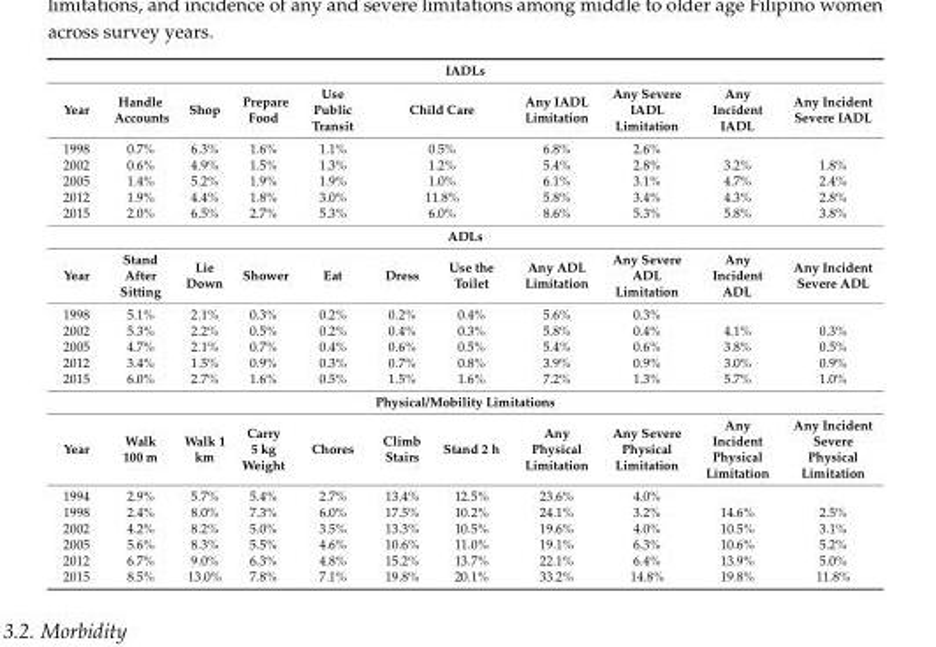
<table><tbody><tr><td colspan="11">IADLs</td></tr><tr><td>Year</td><td>Handle Accounts</td><td>Shop</td><td>Prepare Food</td><td>Use Public Transit</td><td colspan="2">Child Care</td><td>Any IADL Limitation</td><td>Any Severe IADL Limitation</td><td>Any Incident IADL</td><td>Any Incident Severe IADL</td></tr><tr><td>1998</td><td>0.7%</td><td>6.3%</td><td>1.6%</td><td>1.1%</td><td colspan="2">0.5%</td><td>6.8%</td><td>2.6%</td><td></td><td></td></tr><tr><td>2002</td><td>0.6%</td><td>4.9%</td><td>1.5%</td><td>1.3%</td><td colspan="2">1.2%</td><td>5.4%</td><td>2.8%</td><td>3.2%</td><td>1.8%</td></tr><tr><td>2005</td><td>1.4%</td><td>5.2%</td><td>1.9%</td><td>1.9%</td><td colspan="2">1.0%</td><td>6.1%</td><td>3.1%</td><td>4.7%</td><td>2.4%</td></tr><tr><td>2012</td><td>1.9%</td><td>4.4%</td><td>1.8%</td><td>3.0%</td><td colspan="2">11.8%</td><td>5.8%</td><td>3.4%</td><td>4.3%</td><td>2.8%</td></tr><tr><td>2015</td><td>2.0%</td><td>6.5%</td><td>2.7%</td><td>5.3%</td><td colspan="2">6.0%</td><td>8.6%</td><td>5.3%</td><td>5.8%</td><td>3.8%</td></tr><tr><td colspan="11">ADLs</td></tr><tr><td>Year</td><td>Stand After Sitting</td><td>Lie Down</td><td>Shower</td><td>Eat</td><td>Dress</td><td>Use the Toilet</td><td>Any ADL Limitation</td><td>Any Severe ADL Limitation</td><td>Any Incident ADL</td><td>Any Incident Severe ADL</td></tr><tr><td>1998</td><td>5.1%</td><td>2.1%</td><td>0.3%</td><td>0.2%</td><td>0.2%</td><td>0.4%</td><td>5.6%</td><td>0.3%</td><td></td><td></td></tr><tr><td>2002</td><td>5.3%</td><td>2.2%</td><td>0.5%</td><td>0.2%</td><td>0.4%</td><td>0.3%</td><td>5.8%</td><td>0.4%</td><td>4.1%</td><td>0.3%</td></tr><tr><td>2005</td><td>4.7%</td><td>2.1%</td><td>0.7%</td><td>0.4%</td><td>0.6%</td><td>0.5%</td><td>5.4%</td><td>0.6%</td><td>3.8%</td><td>0.5%</td></tr><tr><td>2012</td><td>3.4%</td><td>1.5%</td><td>0.9%</td><td>0.3%</td><td>0.7%</td><td>0.8%</td><td>3.9%</td><td>0.9%</td><td>3.0%</td><td>0.9%</td></tr><tr><td>2015</td><td>6.0%</td><td>2.7%</td><td>1.6%</td><td>0.5%</td><td>1.5%</td><td>1.6%</td><td>7.2%</td><td>1.3%</td><td>5.7%</td><td>1.0%</td></tr><tr><td colspan="11">Physical/Mobility Limitations</td></tr><tr><td>Year</td><td>Walk 100 m</td><td>Walk 1 km</td><td>Carry 5 kg Weight</td><td>Chores</td><td>Climb Stairs</td><td>Stand 2 h</td><td>Any Physical Limitation</td><td>Any Severe Physical Limitation</td><td>Any Incident Physical Limitation</td><td>Any Incident Severe Physical Limitation</td></tr><tr><td>1994</td><td>2.9%</td><td>5.7%</td><td>5.4%</td><td>2.7%</td><td>13.4%</td><td>12.5%</td><td>23.6%</td><td>4.0%</td><td></td><td></td></tr><tr><td>1998</td><td>2.4%</td><td>8.0%</td><td>7.3%</td><td>6.0%</td><td>17.5%</td><td>10.2%</td><td>24.1%</td><td>3.2%</td><td>14.6%</td><td>2.5%</td></tr><tr><td>2002</td><td>4.2%</td><td>8.2%</td><td>5.0%</td><td>3.5%</td><td>13.3%</td><td>10.5%</td><td>19.6%</td><td>4.0%</td><td>10.5%</td><td>3.1%</td></tr><tr><td>2005</td><td>5.6%</td><td>8.3%</td><td>5.5%</td><td>4.6%</td><td>10.6%</td><td>11.0%</td><td>19.1%</td><td>6.3%</td><td>10.6%</td><td>5.2%</td></tr><tr><td>2012</td><td>6.7%</td><td>9.0%</td><td>6.3%</td><td>4.8%</td><td>15.2%</td><td>13.7%</td><td>22.1%</td><td>6.4%</td><td>13.9%</td><td>5.0%</td></tr><tr><td>2015</td><td>8.5%</td><td>13.0%</td><td>7.8%</td><td>7.1%</td><td>19.8%</td><td>20.1%</td><td>33.2%</td><td>14.8%</td><td>19.8%</td><td>11.8%</td></tr></tbody></table>